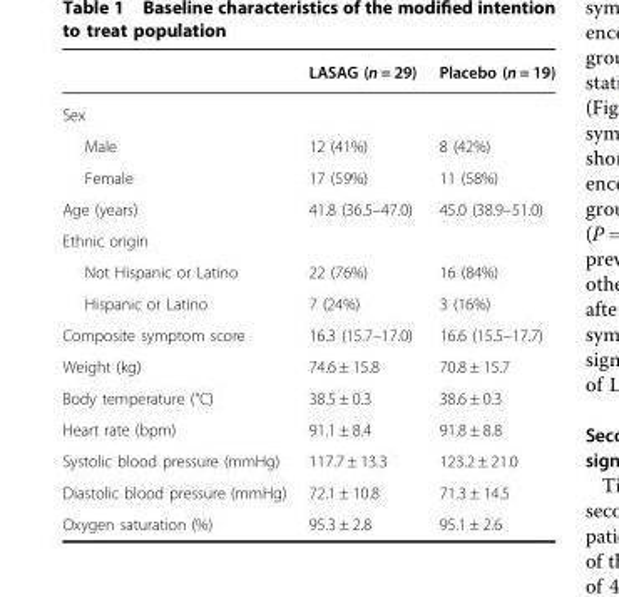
<table><thead><tr><td></td><td>LASAG (n = 29)</td><td>Placebo (n = 19)</td></tr></thead><tbody><tr><td colspan="3">Sex</td></tr><tr><td>Male</td><td>12 (41%)</td><td>8 (42%)</td></tr><tr><td>Female</td><td>17 (59%)</td><td>11 (58%)</td></tr><tr><td>Age (years)</td><td>41.8 (36.5–47.0)</td><td>45.0 (38.9–51.0)</td></tr><tr><td colspan="3">Ethnic origin</td></tr><tr><td>Not Hispanic or Latino</td><td>22 (76%)</td><td>16 (84%)</td></tr><tr><td>Hispanic or Latino</td><td>7 (24%)</td><td>3 (16%)</td></tr><tr><td>Composite symptom score</td><td>16.3 (15.7–17.0)</td><td>16.6 (15.5–17.7)</td></tr><tr><td>Weight (kg)</td><td>74.6 ± 15.8</td><td>70.8 ± 15.7</td></tr><tr><td>Body temperature (°C)</td><td>38.5 ± 0.3</td><td>38.6 ± 0.3</td></tr><tr><td>Heart rate (bpm)</td><td>91.1 ± 8.4</td><td>91.8 ± 8.8</td></tr><tr><td>Systolic blood pressure (mmHg)</td><td>117.7 ± 13.3</td><td>123.2 ± 21.0</td></tr><tr><td>Diastolic blood pressure (mmHg)</td><td>72.1 ± 10.8</td><td>71.3 ± 14.5</td></tr><tr><td>Oxygen saturation (%)</td><td>95.3 ± 2.8</td><td>95.1 ± 2.6</td></tr></tbody></table>